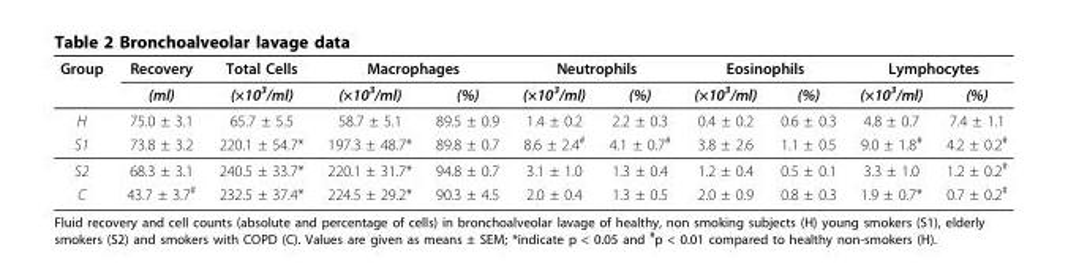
<table><thead><tr><td rowspan="2">Group</td><td rowspan="2">Recovery (ml)</td><td rowspan="2">Total Cells (×10<sup>3</sup>/ml)</td><td colspan="2">Macrophages</td><td colspan="2">Neutrophils</td><td colspan="2">Eosinophils</td><td colspan="2">Lymphocytes</td></tr><tr><td>(×10<sup>3</sup>/ml)</td><td>(%)</td><td>(×10<sup>3</sup>/ml)</td><td>(%)</td><td>(×10<sup>3</sup>/ml)</td><td>(%)</td><td>(×10<sup>3</sup>/ml)</td><td>(%)</td></tr></thead><tbody><tr><td>H</td><td>75.0 ± 3.1</td><td>65.7 ± 5.5</td><td>58.7 ± 5.1</td><td>89.5 ± 0.9</td><td>1.4 ± 0.2</td><td>2.2 ± 0.3</td><td>0.4 ± 0.2</td><td>0.6 ± 0.3</td><td>4.8 ± 0.7</td><td>7.4 ± 1.1</td></tr><tr><td>S1</td><td>73.8 ± 3.2</td><td>220.1 ± 54.7*</td><td>197.3 ± 48.7*</td><td>89.8 ± 0.7</td><td>8.6 ± 2.4<sup>#</sup></td><td>4.1 ± 0.7<sup>#</sup></td><td>3.8 ± 2.6</td><td>1.1 ± 0.5</td><td>9.0 ± 1.8<sup>#</sup></td><td>4.2 ± 0.2<sup>#</sup></td></tr><tr><td>S2</td><td>68.3 ± 3.1</td><td>240.5 ± 33.7*</td><td>220.1 ± 31.7*</td><td>94.8 ± 0.7</td><td>3.1 ± 1.0</td><td>1.3 ± 0.4</td><td>1.2 ± 0.4</td><td>0.5 ± 0.1</td><td>3.3 ± 1.0</td><td>1.2 ± 0.2<sup>#</sup></td></tr><tr><td>C</td><td>43.7 ± 3.7<sup>#</sup></td><td>232.5 ± 37.4*</td><td>224.5 ± 29.2*</td><td>90.3 ± 4.5</td><td>2.0 ± 0.4</td><td>1.3 ± 0.5</td><td>2.0 ± 0.9</td><td>0.8 ± 0.3</td><td>1.9 ± 0.7*</td><td>0.7 ± 0.2<sup>#</sup></td></tr></tbody></table>